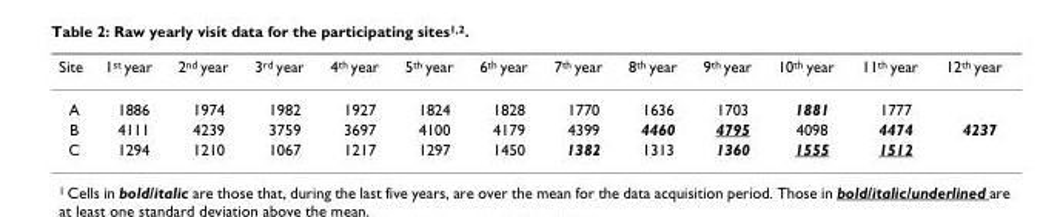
<table><thead><tr><td>Site</td><td>1<sup>st</sup> year</td><td>2<sup>nd</sup> year</td><td>3<sup>rd</sup> year</td><td>4<sup>th</sup> year</td><td>5<sup>th</sup> year</td><td>6<sup>th</sup> year</td><td>7<sup>th</sup> year</td><td>8<sup>th</sup> year</td><td>9<sup>th</sup> year</td><td>10<sup>th</sup> year</td><td>11<sup>th</sup> year</td><td>12<sup>th</sup> year</td></tr></thead><tbody><tr><td>A</td><td>1886</td><td>1974</td><td>1982</td><td>1927</td><td>1824</td><td>1828</td><td>1770</td><td>1636</td><td>1703</td><td>1881</td><td>1777</td><td></td></tr><tr><td>B</td><td>4111</td><td>4239</td><td>3759</td><td>3697</td><td>4100</td><td>4179</td><td>4399</td><td>4460</td><td>4795</td><td>4098</td><td>4474</td><td>4237</td></tr><tr><td>C</td><td>1294</td><td>1210</td><td>1067</td><td>1217</td><td>1297</td><td>1450</td><td>1382</td><td>1313</td><td>1360</td><td>1555</td><td>1512</td><td></td></tr></tbody></table>